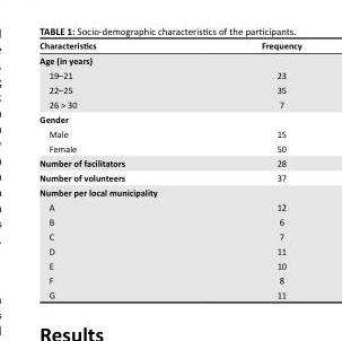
<table><thead><tr><td>Characteristics</td><td>Frequency</td></tr></thead><tbody><tr><td colspan="2">Age (in years)</td></tr><tr><td>19–21</td><td>23</td></tr><tr><td>22–25</td><td>35</td></tr><tr><td>26 &gt; 30</td><td>7</td></tr><tr><td colspan="2">Gender</td></tr><tr><td>Male</td><td>15</td></tr><tr><td>Female</td><td>50</td></tr><tr><td>Number of facilitators</td><td>28</td></tr><tr><td>Number of volunteers</td><td>37</td></tr><tr><td colspan="2">Number per local municipality</td></tr><tr><td>A</td><td>12</td></tr><tr><td>B</td><td>6</td></tr><tr><td>C</td><td>7</td></tr><tr><td>D</td><td>11</td></tr><tr><td>E</td><td>10</td></tr><tr><td>F</td><td>8</td></tr><tr><td>G</td><td>11</td></tr></tbody></table>